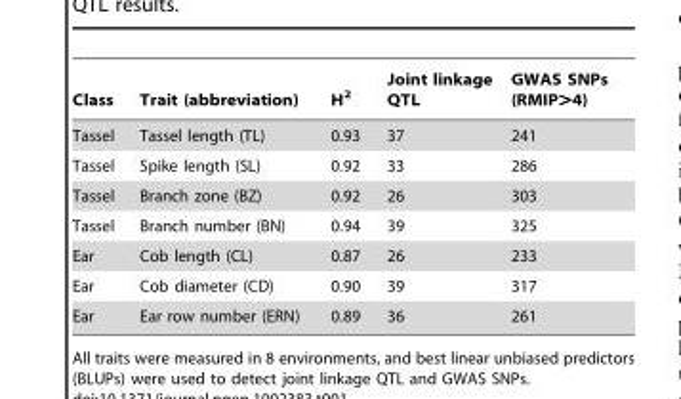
<table><thead><tr><td>Class</td><td>Trait (abbreviation)</td><td>H<sup>2</sup></td><td>Joint linkage QTL</td><td>GWAS SNPs (RMIP&gt;4)</td></tr></thead><tbody><tr><td>Tassel</td><td>Tassel length (TL)</td><td>0.93</td><td>37</td><td>241</td></tr><tr><td>Tassel</td><td>Spike length (SL)</td><td>0.92</td><td>33</td><td>286</td></tr><tr><td>Tassel</td><td>Branch zone (BZ)</td><td>0.92</td><td>26</td><td>303</td></tr><tr><td>Tassel</td><td>Branch number (BN)</td><td>0.94</td><td>39</td><td>325</td></tr><tr><td>Ear</td><td>Cob length (CL)</td><td>0.87</td><td>26</td><td>233</td></tr><tr><td>Ear</td><td>Cob diameter (CD)</td><td>0.90</td><td>39</td><td>317</td></tr><tr><td>Ear</td><td>Ear row number (ERN)</td><td>0.89</td><td>36</td><td>261</td></tr></tbody></table>